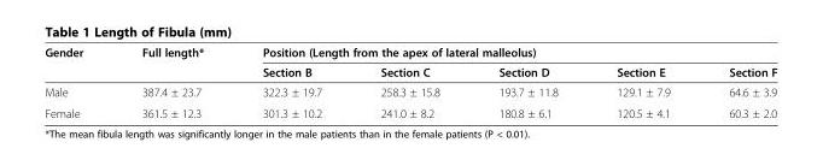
<table><thead><tr><td rowspan="2">Gender</td><td rowspan="2">Full length*</td><td colspan="5">Position (Length from the apex of lateral malleolus)</td></tr><tr><td>Section B</td><td>Section C</td><td>Section D</td><td>Section E</td><td>Section F</td></tr></thead><tbody><tr><td>Male</td><td>387.4 ± 23.7</td><td>322.3 ± 19.7</td><td>258.3 ± 15.8</td><td>193.7 ± 11.8</td><td>129.1 ± 7.9</td><td>64.6 ± 3.9</td></tr><tr><td>Female</td><td>361.5 ± 12.3</td><td>301.3 ± 10.2</td><td>241.0 ± 8.2</td><td>180.8 ± 6.1</td><td>120.5 ± 4.1</td><td>60.3 ± 2.0</td></tr></tbody></table>